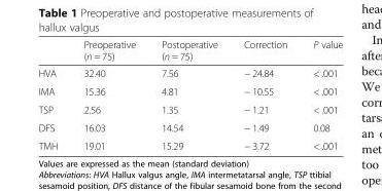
<table><thead><tr><td></td><td>Preoperative (n = 75)</td><td>Postoperative (n = 75)</td><td>Correction</td><td>P value</td></tr></thead><tbody><tr><td>HVA</td><td>32.40</td><td>7.56</td><td>− 24.84</td><td>&lt; .001</td></tr><tr><td>IMA</td><td>15.36</td><td>4.81</td><td>− 10.55</td><td>&lt; .001</td></tr><tr><td>TSP</td><td>2.56</td><td>1.35</td><td>− 1.21</td><td>&lt; .001</td></tr><tr><td>DFS</td><td>16.03</td><td>14.54</td><td>− 1.49</td><td>0.08</td></tr><tr><td>TMH</td><td>19.01</td><td>15.29</td><td>− 3.72</td><td>&lt; .001</td></tr></tbody></table>